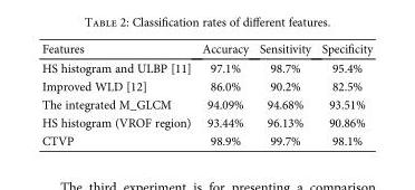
<table><thead><tr><td>Features</td><td>Accuracy</td><td>Sensitivity</td><td>Specificity</td></tr></thead><tbody><tr><td>HS histogram and ULBP [11]</td><td>97.1%</td><td>98.7%</td><td>95.4%</td></tr><tr><td>Improved WLD [12]</td><td>86.0%</td><td>90.2%</td><td>82.5%</td></tr><tr><td>The integrated M_GLCM</td><td>94.09%</td><td>94.68%</td><td>93.51%</td></tr><tr><td>HS histogram (VROF region)</td><td>93.44%</td><td>96.13%</td><td>90.86%</td></tr><tr><td>CTVP</td><td>98.9%</td><td>99.7%</td><td>98.1%</td></tr></tbody></table>